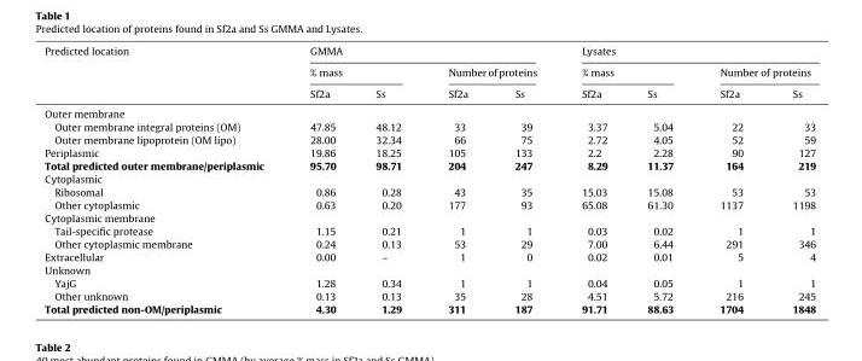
<table><thead><tr><td rowspan="3">Predicted location</td><td colspan="4">GMMA</td><td colspan="4">Lysates</td></tr><tr><td colspan="2">% mass</td><td colspan="2">Number of proteins</td><td colspan="2">% mass</td><td colspan="2">Number of proteins</td></tr><tr><td>Sf2a</td><td>Ss</td><td>Sf2a</td><td>Ss</td><td>Sf2a</td><td>Ss</td><td>Sf2a</td><td>Ss</td></tr></thead><tbody><tr><td colspan="9">Outer membrane</td></tr><tr><td>Outer membrane integral proteins (OM)</td><td>47.85</td><td>48.12</td><td>33</td><td>39</td><td>3.37</td><td>5.04</td><td>22</td><td>33</td></tr><tr><td>Outer membrane lipoprotein (OM lipo)</td><td>28.00</td><td>32.34</td><td>66</td><td>75</td><td>2.72</td><td>4.05</td><td>52</td><td>59</td></tr><tr><td>Periplasmic</td><td>19.86</td><td>18.25</td><td>105</td><td>133</td><td>2.2</td><td>2.28</td><td>90</td><td>127</td></tr><tr><td>Total predicted outer membrane/periplasmic</td><td>95.70</td><td>98.71</td><td>204</td><td>247</td><td>8.29</td><td>11.37</td><td>164</td><td>219</td></tr><tr><td colspan="9">Cytoplasmic</td></tr><tr><td>Ribosomal</td><td>0.86</td><td>0.28</td><td>43</td><td>35</td><td>15.03</td><td>15.08</td><td>53</td><td>53</td></tr><tr><td>Other cytoplasmic</td><td>0.63</td><td>0.20</td><td>177</td><td>93</td><td>65.08</td><td>61.30</td><td>1137</td><td>1198</td></tr><tr><td colspan="9">Cytoplasmic membrane</td></tr><tr><td>Tail-specific protease</td><td>1.15</td><td>0.21</td><td>1</td><td>1</td><td>0.03</td><td>0.02</td><td>1</td><td>1</td></tr><tr><td>Other cytoplasmic membrane</td><td>0.24</td><td>0.13</td><td>53</td><td>29</td><td>7.00</td><td>6.44</td><td>291</td><td>346</td></tr><tr><td>Extracellular</td><td>0.00</td><td>–</td><td>1</td><td>0</td><td>0.02</td><td>0.01</td><td>5</td><td>4</td></tr><tr><td colspan="9">Unknown</td></tr><tr><td>YajG</td><td>1.28</td><td>0.34</td><td>1</td><td>1</td><td>0.04</td><td>0.05</td><td>1</td><td>1</td></tr><tr><td>Other unknown</td><td>0.13</td><td>0.13</td><td>35</td><td>28</td><td>4.51</td><td>5.72</td><td>216</td><td>245</td></tr><tr><td>Total predicted non-OM/periplasmic</td><td>4.30</td><td>1.29</td><td>311</td><td>187</td><td>91.71</td><td>88.63</td><td>1704</td><td>1848</td></tr></tbody></table>